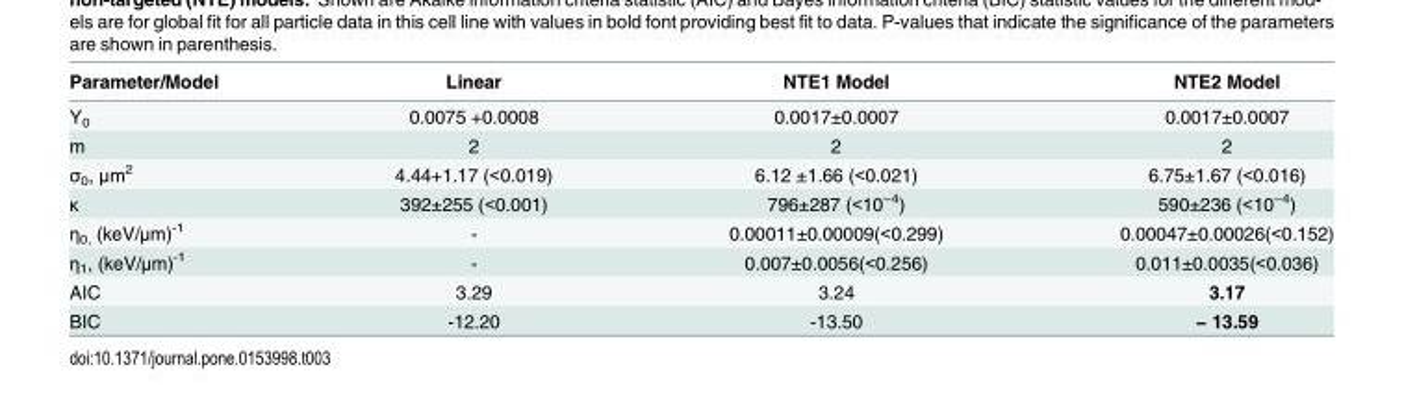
<table><thead><tr><td>Parameter/Model</td><td>Linear</td><td>NTE1 Model</td><td>NTE2 Model</td></tr></thead><tbody><tr><td>Y<sub>0</sub></td><td>0.0075 +0.0008</td><td>0.0017±0.0007</td><td>0.0017±0.0007</td></tr><tr><td>m</td><td>2</td><td>2</td><td>2</td></tr><tr><td>σ<sub>0</sub>, μm<sup>2</sup></td><td>4.44+1.17 (&lt;0.019)</td><td>6.12 ±1.66 (&lt;0.021)</td><td>6.75±1.67 (&lt;0.016)</td></tr><tr><td>κ</td><td>392±255 (&lt;0.001)</td><td>796±287 (&lt;10<sup>−4</sup>)</td><td>590±236 (&lt;10<sup>−4</sup>)</td></tr><tr><td>η<sub>0,</sub> (keV/μm)<sup>-1</sup></td><td>-</td><td>0.00011±0.00009(&lt;0.299)</td><td>0.00047±0.00026(&lt;0.152)</td></tr><tr><td>η<sub>1</sub>, (keV/μm)<sup>-1</sup></td><td>-</td><td>0.007±0.0056(&lt;0.256)</td><td>0.011±0.0035(&lt;0.036)</td></tr><tr><td>AIC</td><td>3.29</td><td>3.24</td><td>3.17</td></tr><tr><td>BIC</td><td>-12.20</td><td>-13.50</td><td>− 13.59</td></tr></tbody></table>